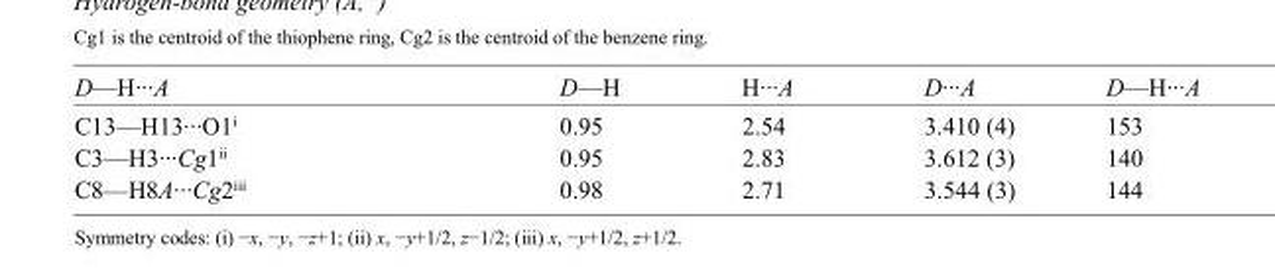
<table><tbody><tr><td>D—H···A</td><td>D—H</td><td>H···A</td><td>D···A</td><td>D—H···A</td></tr><tr><td>C13—H13···O1<sup>i</sup></td><td>0.95</td><td>2.54</td><td>3.410 (4)</td><td>153</td></tr><tr><td>C3—H3···Cg1<sup>ii</sup></td><td>0.95</td><td>2.83</td><td>3.612 (3)</td><td>140</td></tr><tr><td>C8—H8A···Cg2<sup>iii</sup></td><td>0.98</td><td>2.71</td><td>3.544 (3)</td><td>144</td></tr></tbody></table>